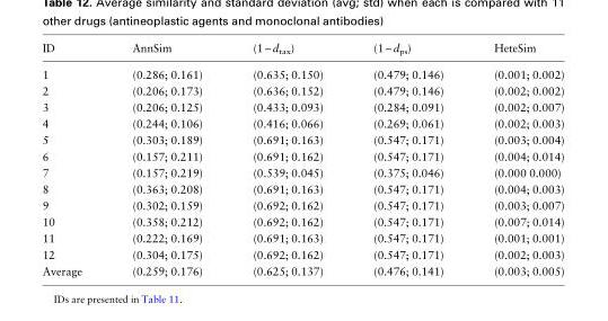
<table><thead><tr><td>ID</td><td>AnnSim</td><td>(1 – d<sub>tax</sub>)</td><td>(1 – d<sub>ps</sub>)</td><td>HeteSim</td></tr></thead><tbody><tr><td>1</td><td>(0.286; 0.161)</td><td>(0.635; 0.150)</td><td>(0.479; 0.146)</td><td>(0.001; 0.002)</td></tr><tr><td>2</td><td>(0.206; 0.173)</td><td>(0.636; 0.152)</td><td>(0.479; 0.146)</td><td>(0.002; 0.002)</td></tr><tr><td>3</td><td>(0.206; 0.125)</td><td>(0.433; 0.093)</td><td>(0.284; 0.091)</td><td>(0.002; 0.007)</td></tr><tr><td>4</td><td>(0.244; 0.106)</td><td>(0.416; 0.066)</td><td>(0.269; 0.061)</td><td>(0.002; 0.003)</td></tr><tr><td>5</td><td>(0.303; 0.189)</td><td>(0.691; 0.163)</td><td>(0.547; 0.171)</td><td>(0.003; 0.004)</td></tr><tr><td>6</td><td>(0.157; 0.211)</td><td>(0.691; 0.162)</td><td>(0.547; 0.171)</td><td>(0.004; 0.014)</td></tr><tr><td>7</td><td>(0.157; 0.219)</td><td>(0.539; 0.045)</td><td>(0.375; 0.046)</td><td>(0.000 0.000)</td></tr><tr><td>8</td><td>(0.363; 0.208)</td><td>(0.691; 0.163)</td><td>(0.547; 0.171)</td><td>(0.004; 0.003)</td></tr><tr><td>9</td><td>(0.302; 0.159)</td><td>(0.692; 0.162)</td><td>(0.547; 0.171)</td><td>(0.003; 0.007)</td></tr><tr><td>10</td><td>(0.358; 0.212)</td><td>(0.692; 0.162)</td><td>(0.547; 0.171)</td><td>(0.007; 0.014)</td></tr><tr><td>11</td><td>(0.222; 0.169)</td><td>(0.691; 0.163)</td><td>(0.547; 0.171)</td><td>(0.001; 0.001)</td></tr><tr><td>12</td><td>(0.304; 0.175)</td><td>(0.692; 0.162)</td><td>(0.547; 0.171)</td><td>(0.002; 0.003)</td></tr><tr><td>Average</td><td>(0.259; 0.176)</td><td>(0.625; 0.137)</td><td>(0.476; 0.141)</td><td>(0.003; 0.005)</td></tr></tbody></table>